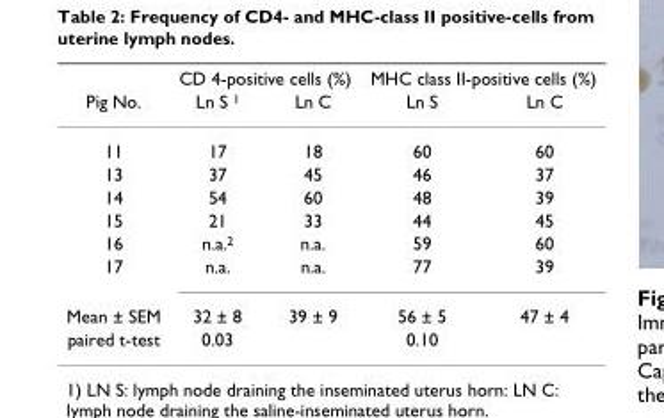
<table><thead><tr><td rowspan="2">Pig No.</td><td colspan="2">CD 4-positive cells (%)</td><td colspan="2">MHC class II-positive cells (%)</td></tr><tr><td>Ln S <sup>1</sup></td><td>Ln C</td><td>Ln S</td><td>Ln C</td></tr></thead><tbody><tr><td>11</td><td>17</td><td>18</td><td>60</td><td>60</td></tr><tr><td>13</td><td>37</td><td>45</td><td>46</td><td>37</td></tr><tr><td>14</td><td>54</td><td>60</td><td>48</td><td>39</td></tr><tr><td>15</td><td>21</td><td>33</td><td>44</td><td>45</td></tr><tr><td>16</td><td>n.a.<sup>2</sup></td><td>n.a.</td><td>59</td><td>60</td></tr><tr><td>17</td><td>n.a.</td><td>n.a.</td><td>77</td><td>39</td></tr><tr><td>Mean ± SEM</td><td>32 ± 8</td><td>39 ± 9</td><td>56 ± 5</td><td>47 ± 4</td></tr><tr><td>paired t-test</td><td>0.03</td><td></td><td>0.10</td><td></td></tr></tbody></table>